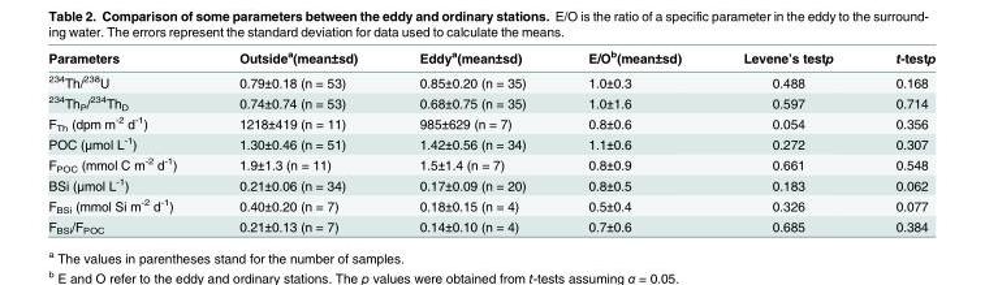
<table><thead><tr><td>Parameters</td><td>Outside<sup>a</sup>(mean±sd)</td><td>Eddy<sup>a</sup>(mean±sd)</td><td>E/O<sup>b</sup>(mean±sd)</td><td>Levene’s testp</td><td>t-testp</td></tr></thead><tbody><tr><td><sup>234</sup>Th/<sup>238</sup>U</td><td>0.79±0.18 (n = 53)</td><td>0.85±0.20 (n = 35)</td><td>1.0±0.3</td><td>0.488</td><td>0.168</td></tr><tr><td><sup>234</sup>Th<sub>P</sub>/<sup>234</sup>Th<sub>D</sub></td><td>0.74±0.74 (n = 53)</td><td>0.68±0.75 (n = 35)</td><td>1.0±1.6</td><td>0.597</td><td>0.714</td></tr><tr><td>F<sub>Th</sub> (dpm m<sup>-2</sup> d<sup>-1</sup>)</td><td>1218±419 (n = 11)</td><td>985±629 (n = 7)</td><td>0.8±0.6</td><td>0.054</td><td>0.356</td></tr><tr><td>POC (μmol L<sup>-1</sup>)</td><td>1.30±0.46 (n = 51)</td><td>1.42±0.56 (n = 34)</td><td>1.1±0.6</td><td>0.272</td><td>0.307</td></tr><tr><td>F<sub>POC</sub> (mmol C m<sup>-2</sup> d<sup>-1</sup>)</td><td>1.9±1.3 (n = 11)</td><td>1.5±1.4 (n = 7)</td><td>0.8±0.9</td><td>0.661</td><td>0.548</td></tr><tr><td>BSi (μmol L<sup>-1</sup>)</td><td>0.21±0.06 (n = 34)</td><td>0.17±0.09 (n = 20)</td><td>0.8±0.5</td><td>0.183</td><td>0.062</td></tr><tr><td>F<sub>BSi</sub> (mmol Si m<sup>-2</sup> d<sup>-1</sup>)</td><td>0.40±0.20 (n = 7)</td><td>0.18±0.15 (n = 4)</td><td>0.5±0.4</td><td>0.326</td><td>0.077</td></tr><tr><td>F<sub>BSi</sub>/F<sub>POC</sub></td><td>0.21±0.13 (n = 7)</td><td>0.14±0.10 (n = 4)</td><td>0.7±0.6</td><td>0.685</td><td>0.384</td></tr></tbody></table>